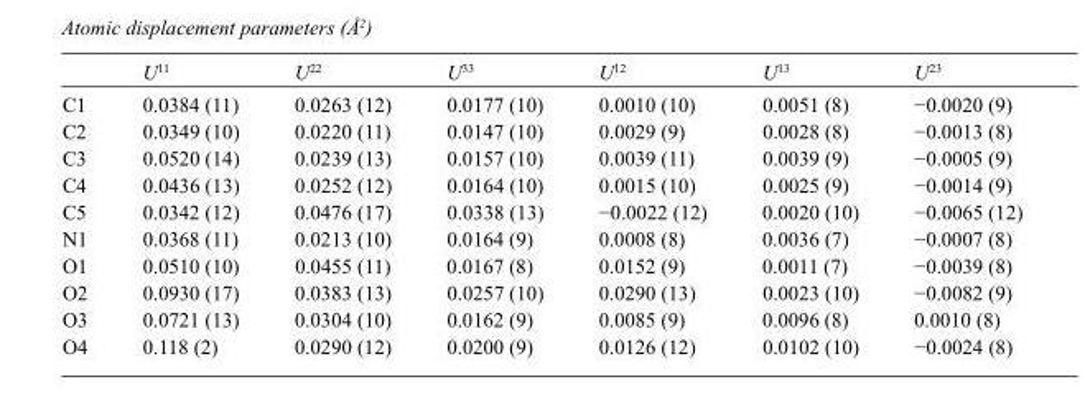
<table><thead><tr><td></td><td>U<sup>11</sup></td><td>U<sup>22</sup></td><td>U<sup>33</sup></td><td>U<sup>12</sup></td><td>U<sup>13</sup></td><td>U<sup>23</sup></td></tr></thead><tbody><tr><td>C1</td><td>0.0384 (11)</td><td>0.0263 (12)</td><td>0.0177 (10)</td><td>0.0010 (10)</td><td>0.0051 (8)</td><td>−0.0020 (9)</td></tr><tr><td>C2</td><td>0.0349 (10)</td><td>0.0220 (11)</td><td>0.0147 (10)</td><td>0.0029 (9)</td><td>0.0028 (8)</td><td>−0.0013 (8)</td></tr><tr><td>C3</td><td>0.0520 (14)</td><td>0.0239 (13)</td><td>0.0157 (10)</td><td>0.0039 (11)</td><td>0.0039 (9)</td><td>−0.0005 (9)</td></tr><tr><td>C4</td><td>0.0436 (13)</td><td>0.0252 (12)</td><td>0.0164 (10)</td><td>0.0015 (10)</td><td>0.0025 (9)</td><td>−0.0014 (9)</td></tr><tr><td>C5</td><td>0.0342 (12)</td><td>0.0476 (17)</td><td>0.0338 (13)</td><td>−0.0022 (12)</td><td>0.0020 (10)</td><td>−0.0065 (12)</td></tr><tr><td>N1</td><td>0.0368 (11)</td><td>0.0213 (10)</td><td>0.0164 (9)</td><td>0.0008 (8)</td><td>0.0036 (7)</td><td>−0.0007 (8)</td></tr><tr><td>O1</td><td>0.0510 (10)</td><td>0.0455 (11)</td><td>0.0167 (8)</td><td>0.0152 (9)</td><td>0.0011 (7)</td><td>−0.0039 (8)</td></tr><tr><td>O2</td><td>0.0930 (17)</td><td>0.0383 (13)</td><td>0.0257 (10)</td><td>0.0290 (13)</td><td>0.0023 (10)</td><td>−0.0082 (9)</td></tr><tr><td>O3</td><td>0.0721 (13)</td><td>0.0304 (10)</td><td>0.0162 (9)</td><td>0.0085 (9)</td><td>0.0096 (8)</td><td>0.0010 (8)</td></tr><tr><td>O4</td><td>0.118 (2)</td><td>0.0290 (12)</td><td>0.0200 (9)</td><td>0.0126 (12)</td><td>0.0102 (10)</td><td>−0.0024 (8)</td></tr></tbody></table>